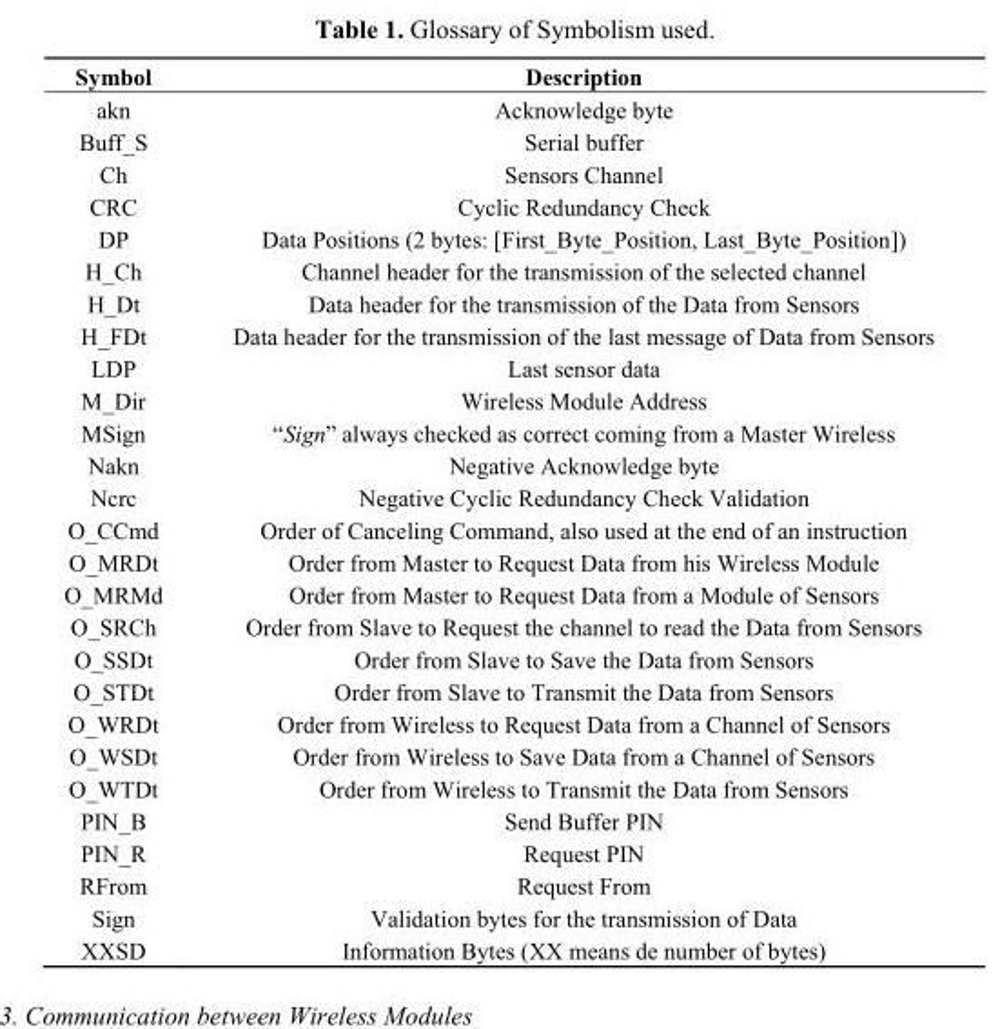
<table><thead><tr><td>Symbol</td><td>Description</td></tr></thead><tbody><tr><td>akn</td><td>Acknowledge byte</td></tr><tr><td>Buff_S</td><td>Serial buffer</td></tr><tr><td>Ch</td><td>Sensors Channel</td></tr><tr><td>CRC</td><td>Cyclic Redundancy Check</td></tr><tr><td>DP</td><td>Data Positions (2 bytes: [First_Byte_Position, Last_Byte_Position])</td></tr><tr><td>H_Ch</td><td>Channel header for the transmission of the selected channel</td></tr><tr><td>H_Dt</td><td>Data header for the transmission of the Data from Sensors</td></tr><tr><td>H_FDt</td><td>Data header for the transmission of the last message of Data from Sensors</td></tr><tr><td>LDP</td><td>Last sensor data</td></tr><tr><td>M_Dir</td><td>Wireless Module Address</td></tr><tr><td>MSign</td><td>“Sign” always checked as correct coming from a Master Wireless</td></tr><tr><td>Nakn</td><td>Negative Acknowledge byte</td></tr><tr><td>Ncrc</td><td>Negative Cyclic Redundancy Check Validation</td></tr><tr><td>O_CCmd</td><td>Order of Canceling Command, also used at the end of an instruction</td></tr><tr><td>O_MRDt</td><td>Order from Master to Request Data from his Wireless Module</td></tr><tr><td>O_MRMd</td><td>Order from Master to Request Data from a Module of Sensors</td></tr><tr><td>O_SRCh</td><td>Order from Slave to Request the channel to read the Data from Sensors</td></tr><tr><td>O_SSDt</td><td>Order from Slave to Save the Data from Sensors</td></tr><tr><td>O_STDt</td><td>Order from Slave to Transmit the Data from Sensors</td></tr><tr><td>O_WRDt</td><td>Order from Wireless to Request Data from a Channel of Sensors</td></tr><tr><td>O_WSDt</td><td>Order from Wireless to Save Data from a Channel of Sensors</td></tr><tr><td>O_WTDt</td><td>Order from Wireless to Transmit the Data from Sensors</td></tr><tr><td>PIN_B</td><td>Send Buffer PIN</td></tr><tr><td>PIN_R</td><td>Request PIN</td></tr><tr><td>RFrom</td><td>Request From</td></tr><tr><td>Sign</td><td>Validation bytes for the transmission of Data</td></tr><tr><td>XXSD</td><td>Information Bytes (XX means de number of bytes)</td></tr></tbody></table>